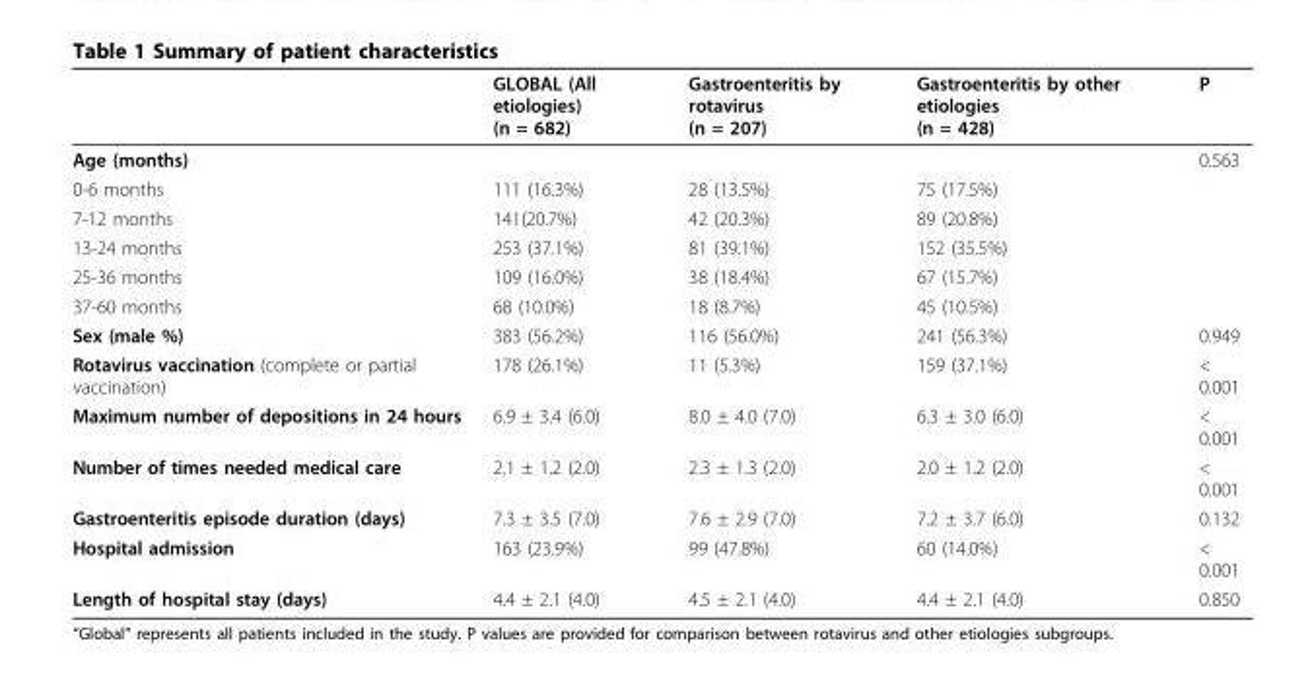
<table><thead><tr><td></td><td>GLOBAL (All etiologies) (n = 682)</td><td>Gastroenteritis by rotavirus (n = 207)</td><td>Gastroenteritis by other etiologies (n = 428)</td><td>P</td></tr></thead><tbody><tr><td>Age (months)</td><td></td><td></td><td></td><td>0.563</td></tr><tr><td>0-6 months</td><td>111 (16.3%)</td><td>28 (13.5%)</td><td>75 (17.5%)</td><td></td></tr><tr><td>7-12 months</td><td>141(20.7%)</td><td>42 (20.3%)</td><td>89 (20.8%)</td><td></td></tr><tr><td>13-24 months</td><td>253 (37.1%)</td><td>81 (39.1%)</td><td>152 (35.5%)</td><td></td></tr><tr><td>25-36 months</td><td>109 (16.0%)</td><td>38 (18.4%)</td><td>67 (15.7%)</td><td></td></tr><tr><td>37-60 months</td><td>68 (10.0%)</td><td>18 (8.7%)</td><td>45 (10.5%)</td><td></td></tr><tr><td>Sex (male %)</td><td>383 (56.2%)</td><td>116 (56.0%)</td><td>241 (56.3%)</td><td>0.949</td></tr><tr><td>Rotavirus vaccination (complete or partial vaccination)</td><td>178 (26.1%)</td><td>11 (5.3%)</td><td>159 (37.1%)</td><td>&lt; 0.001</td></tr><tr><td>Maximum number of depositions in 24 hours</td><td>6.9 ± 3.4 (6.0)</td><td>8.0 ± 4.0 (7.0)</td><td>6.3 ± 3.0 (6.0)</td><td>&lt; 0.001</td></tr><tr><td>Number of times needed medical care</td><td>2.1 ± 1.2 (2.0)</td><td>2.3 ± 1.3 (2.0)</td><td>2.0 ± 1.2 (2.0)</td><td>&lt; 0.001</td></tr><tr><td>Gastroenteritis episode duration (days)</td><td>7.3 ± 3.5 (7.0)</td><td>7.6 ± 2.9 (7.0)</td><td>7.2 ± 3.7 (6.0)</td><td>0.132</td></tr><tr><td>Hospital admission</td><td>163 (23.9%)</td><td>99 (47.8%)</td><td>60 (14.0%)</td><td>&lt; 0.001</td></tr><tr><td>Length of hospital stay (days)</td><td>4.4 ± 2.1 (4.0)</td><td>4.5 ± 2.1 (4.0)</td><td>4.4 ± 2.1 (4.0)</td><td>0.850</td></tr></tbody></table>